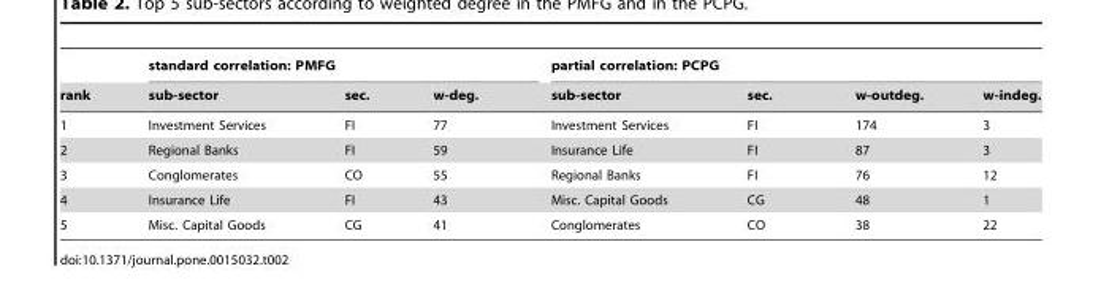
<table><thead><tr><td rowspan="2">rank</td><td colspan="3">standard correlation: PMFG</td><td colspan="4">partial correlation: PCPG</td></tr><tr><td>sub-sector</td><td>sec.</td><td>w-deg.</td><td>sub-sector</td><td>sec.</td><td>w-outdeg.</td><td>w-indeg.</td></tr></thead><tbody><tr><td>1</td><td>Investment Services</td><td>FI</td><td>77</td><td>Investment Services</td><td>FI</td><td>174</td><td>3</td></tr><tr><td>2</td><td>Regional Banks</td><td>FI</td><td>59</td><td>Insurance Life</td><td>FI</td><td>87</td><td>3</td></tr><tr><td>3</td><td>Conglomerates</td><td>CO</td><td>55</td><td>Regional Banks</td><td>FI</td><td>76</td><td>12</td></tr><tr><td>4</td><td>Insurance Life</td><td>FI</td><td>43</td><td>Misc. Capital Goods</td><td>CG</td><td>48</td><td>1</td></tr><tr><td>5</td><td>Misc. Capital Goods</td><td>CG</td><td>41</td><td>Conglomerates</td><td>CO</td><td>38</td><td>22</td></tr></tbody></table>